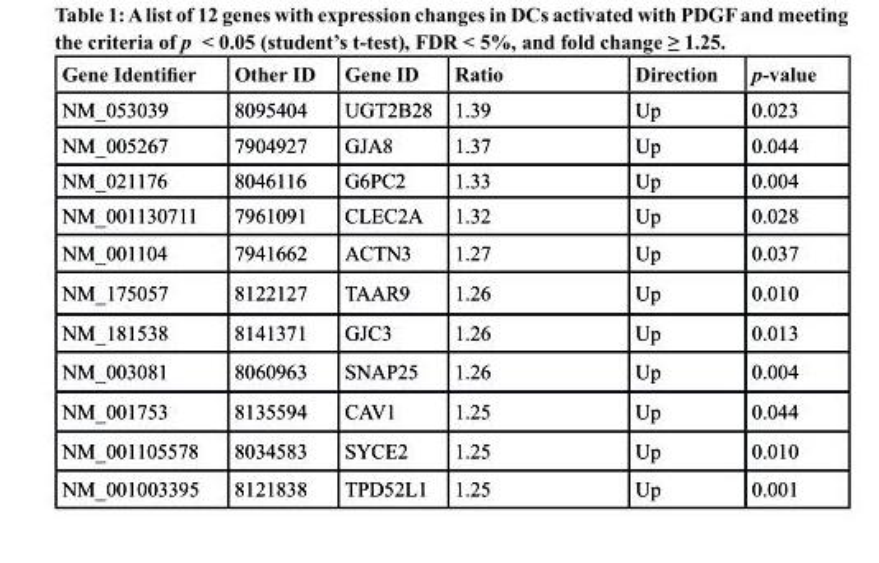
<table><thead><tr><td>Gene Identifier</td><td>Other ID</td><td>Gene ID</td><td>ratio</td><td>Direction</td><td>p-value</td></tr></thead><tbody><tr><td>NM_053039</td><td>8095404</td><td>UGT2B28</td><td>1.39</td><td>Up</td><td>0.023</td></tr><tr><td>NM_005267</td><td>7904927</td><td>GJA8</td><td>1.37</td><td>Up</td><td>0.044</td></tr><tr><td>NM_021176</td><td>8046116</td><td>G6PC2</td><td>1.33</td><td>Up</td><td>0.004</td></tr><tr><td>NM_001130711</td><td>7961091</td><td>CLEC2A</td><td>1.32</td><td>Up</td><td>0.028</td></tr><tr><td>NM_001104</td><td>7941662</td><td>ACTN3</td><td>1.27</td><td>Up</td><td>0.037</td></tr><tr><td>NM_175057</td><td>8122127</td><td>TAAR9</td><td>1.26</td><td>Up</td><td>0.010</td></tr><tr><td>NM_181538</td><td>8141371</td><td>GJC3</td><td>1.26</td><td>Up</td><td>0.013</td></tr><tr><td>NM_003081</td><td>8060963</td><td>SNAP25</td><td>1.26</td><td>Up</td><td>0.004</td></tr><tr><td>NM_001753</td><td>8135594</td><td>CAV1</td><td>1.25</td><td>Up</td><td>0.044</td></tr><tr><td>NM_001105578</td><td>8034583</td><td>SYCE2</td><td>1.25</td><td>Up</td><td>0.010</td></tr><tr><td>NM_001003395</td><td>8121838</td><td>TPD52L1</td><td>1.25</td><td>Up</td><td>0.001</td></tr></tbody></table>